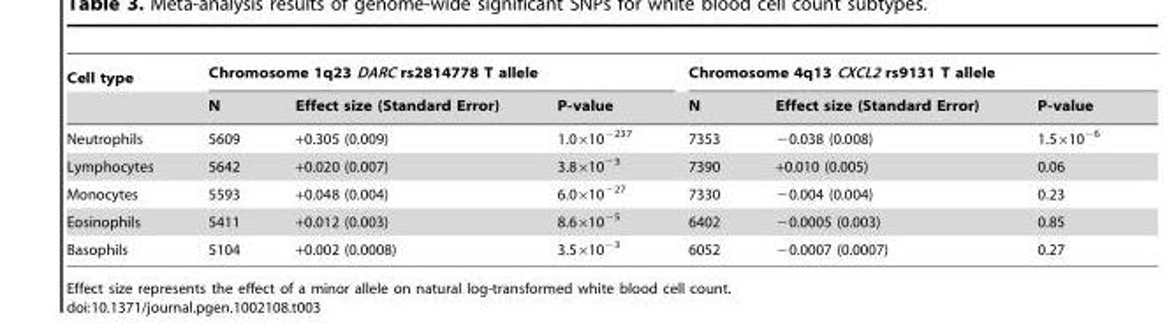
<table><thead><tr><td rowspan="2">Cell type</td><td colspan="3">Chromosome 1q23 DARC rs2814778 T allele</td><td colspan="3">Chromosome 4q13 CXCL2 rs9131 T allele</td></tr><tr><td>N</td><td>Effect size (Standard Error)</td><td>P-value</td><td>N</td><td>Effect size (Standard Error)</td><td>P-value</td></tr></thead><tbody><tr><td>Neutrophils</td><td>5609</td><td>+0.305 (0.009)</td><td>1.0×10<sup>−237</sup></td><td>7353</td><td>−0.038 (0.008)</td><td>1.5×10<sup>−6</sup></td></tr><tr><td>Lymphocytes</td><td>5642</td><td>+0.020 (0.007)</td><td>3.8×10<sup>−3</sup></td><td>7390</td><td>+0.010 (0.005)</td><td>0.06</td></tr><tr><td>Monocytes</td><td>5593</td><td>+0.048 (0.004)</td><td>6.0×10<sup>−27</sup></td><td>7330</td><td>−0.004 (0.004)</td><td>0.23</td></tr><tr><td>Eosinophils</td><td>5411</td><td>+0.012 (0.003)</td><td>8.6×10<sup>−5</sup></td><td>6402</td><td>−0.0005 (0.003)</td><td>0.85</td></tr><tr><td>Basophils</td><td>5104</td><td>+0.002 (0.0008)</td><td>3.5×10<sup>−3</sup></td><td>6052</td><td>−0.0007 (0.0007)</td><td>0.27</td></tr></tbody></table>